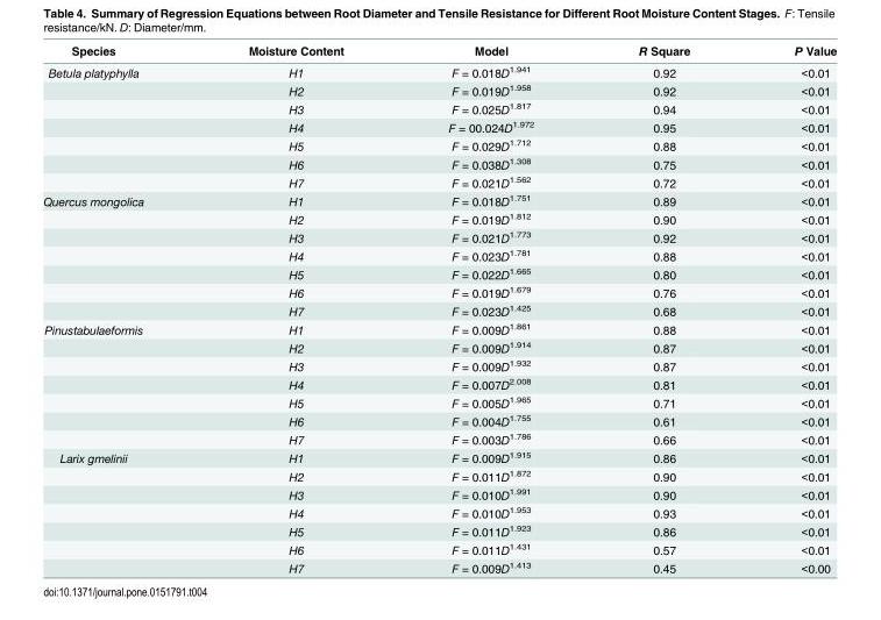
<table><thead><tr><td>Species</td><td>Moisture Content</td><td>Model</td><td>R Square</td><td>P Value</td></tr></thead><tbody><tr><td rowspan="7">Betula platyphylla</td><td>H1</td><td>F = 0.018D<sup>1.941</sup></td><td>0.92</td><td>&lt;0.01</td></tr><tr><td>H2</td><td>F = 0.019D<sup>1.958</sup></td><td>0.92</td><td>&lt;0.01</td></tr><tr><td>H3</td><td>F = 0.025D<sup>1.817</sup></td><td>0.94</td><td>&lt;0.01</td></tr><tr><td>H4</td><td>F = 00.024D<sup>1.972</sup></td><td>0.95</td><td>&lt;0.01</td></tr><tr><td>H5</td><td>F = 0.029D<sup>1.712</sup></td><td>0.88</td><td>&lt;0.01</td></tr><tr><td>H6</td><td>F = 0.038D<sup>1.308</sup></td><td>0.75</td><td>&lt;0.01</td></tr><tr><td>H7</td><td>F = 0.021D<sup>1.562</sup></td><td>0.72</td><td>&lt;0.01</td></tr><tr><td rowspan="7">Quercus mongolica</td><td>H1</td><td>F = 0.018D<sup>1.751</sup></td><td>0.89</td><td>&lt;0.01</td></tr><tr><td>H2</td><td>F = 0.019D<sup>1.812</sup></td><td>0.90</td><td>&lt;0.01</td></tr><tr><td>H3</td><td>F = 0.021D<sup>1.773</sup></td><td>0.92</td><td>&lt;0.01</td></tr><tr><td>H4</td><td>F = 0.023D<sup>1.781</sup></td><td>0.88</td><td>&lt;0.01</td></tr><tr><td>H5</td><td>F = 0.022D<sup>1.665</sup></td><td>0.80</td><td>&lt;0.01</td></tr><tr><td>H6</td><td>F = 0.019D<sup>1.679</sup></td><td>0.76</td><td>&lt;0.01</td></tr><tr><td>H7</td><td>F = 0.023D<sup>1.425</sup></td><td>0.68</td><td>&lt;0.01</td></tr><tr><td rowspan="7">Pinustabulaeformis</td><td>H1</td><td>F = 0.009D<sup>1.861</sup></td><td>0.88</td><td>&lt;0.01</td></tr><tr><td>H2</td><td>F = 0.009D<sup>1.914</sup></td><td>0.87</td><td>&lt;0.01</td></tr><tr><td>H3</td><td>F = 0.009D<sup>1.932</sup></td><td>0.87</td><td>&lt;0.01</td></tr><tr><td>H4</td><td>F = 0.007D<sup>2.008</sup></td><td>0.81</td><td>&lt;0.01</td></tr><tr><td>H5</td><td>F = 0.005D<sup>1.965</sup></td><td>0.71</td><td>&lt;0.01</td></tr><tr><td>H6</td><td>F = 0.004D<sup>1.755</sup></td><td>0.61</td><td>&lt;0.01</td></tr><tr><td>H7</td><td>F = 0.003D<sup>1.786</sup></td><td>0.66</td><td>&lt;0.01</td></tr><tr><td rowspan="7">Larix gmelinii</td><td>H1</td><td>F = 0.009D<sup>1.915</sup></td><td>0.86</td><td>&lt;0.01</td></tr><tr><td>H2</td><td>F = 0.011D<sup>1.872</sup></td><td>0.90</td><td>&lt;0.01</td></tr><tr><td>H3</td><td>F = 0.010D<sup>1.991</sup></td><td>0.90</td><td>&lt;0.01</td></tr><tr><td>H4</td><td>F = 0.010D<sup>1.953</sup></td><td>0.93</td><td>&lt;0.01</td></tr><tr><td>H5</td><td>F = 0.011D<sup>1.923</sup></td><td>0.86</td><td>&lt;0.01</td></tr><tr><td>H6</td><td>F = 0.011D<sup>1.431</sup></td><td>0.57</td><td>&lt;0.01</td></tr><tr><td>H7</td><td>F = 0.009D<sup>1.413</sup></td><td>0.45</td><td>&lt;0.00</td></tr></tbody></table>